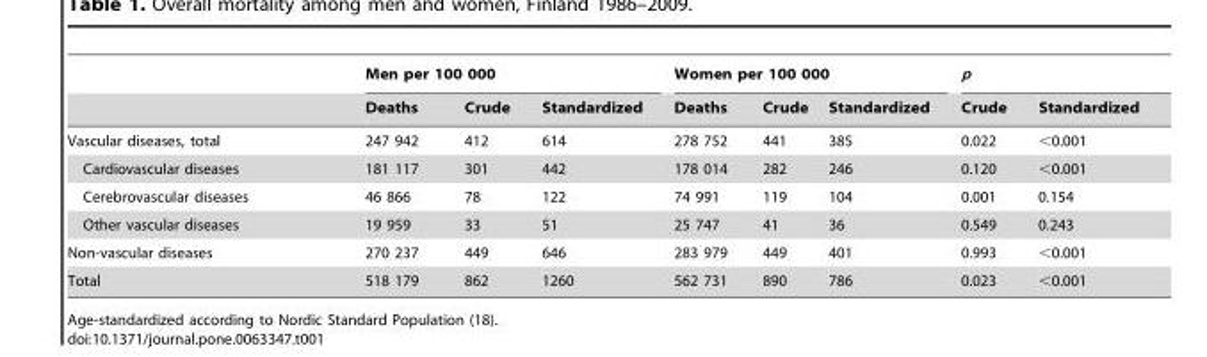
<table><thead><tr><td rowspan="2"></td><td colspan="3">Men per 100 000</td><td colspan="3">Women per 100 000</td><td colspan="2">p</td></tr><tr><td>Deaths</td><td>Crude</td><td>Standardized</td><td>Deaths</td><td>Crude</td><td>Standardized</td><td>Crude</td><td>Standardized</td></tr></thead><tbody><tr><td>Vascular diseases, total</td><td>247 942</td><td>412</td><td>614</td><td>278 752</td><td>441</td><td>385</td><td>0.022</td><td>&lt;0.001</td></tr><tr><td>Cardiovascular diseases</td><td>181 117</td><td>301</td><td>442</td><td>178 014</td><td>282</td><td>246</td><td>0.120</td><td>&lt;0.001</td></tr><tr><td>Cerebrovascular diseases</td><td>46 866</td><td>78</td><td>122</td><td>74 991</td><td>119</td><td>104</td><td>0.001</td><td>0.154</td></tr><tr><td>Other vascular diseases</td><td>19 959</td><td>33</td><td>51</td><td>25 747</td><td>41</td><td>36</td><td>0.549</td><td>0.243</td></tr><tr><td>Non-vascular diseases</td><td>270 237</td><td>449</td><td>646</td><td>283 979</td><td>449</td><td>401</td><td>0.993</td><td>&lt;0.001</td></tr><tr><td>Total</td><td>518 179</td><td>862</td><td>1260</td><td>562 731</td><td>890</td><td>786</td><td>0.023</td><td>&lt;0.001</td></tr></tbody></table>